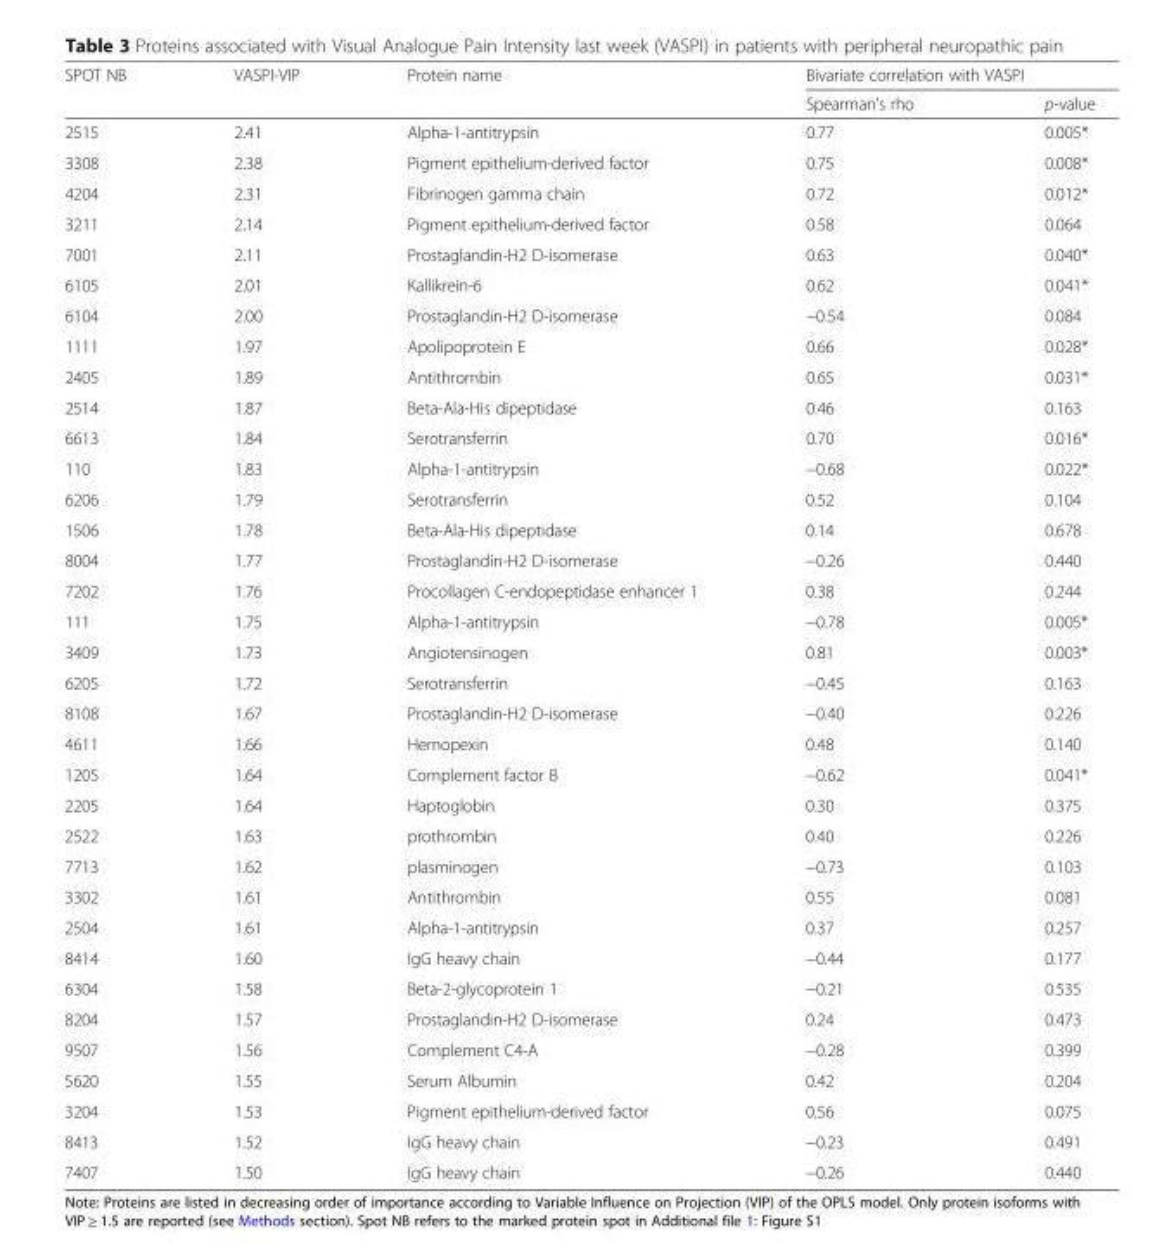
<table><thead><tr><td rowspan="2">SPOT NB</td><td rowspan="2">VASPI-VIP</td><td rowspan="2">Protein name</td><td colspan="2">Bivariate correlation with VASPI</td></tr><tr><td>Spearman’s rho</td><td>p-value</td></tr></thead><tbody><tr><td>2515</td><td>2.41</td><td>Alpha-1-antitrypsin</td><td>0.77</td><td>0.005*</td></tr><tr><td>3308</td><td>2.38</td><td>Pigment epithelium-derived factor</td><td>0.75</td><td>0.008*</td></tr><tr><td>4204</td><td>2.31</td><td>Fibrinogen gamma chain</td><td>0.72</td><td>0.012*</td></tr><tr><td>3211</td><td>2.14</td><td>Pigment epithelium-derived factor</td><td>0.58</td><td>0.064</td></tr><tr><td>7001</td><td>2.11</td><td>Prostaglandin-H2 D-isomerase</td><td>0.63</td><td>0.040*</td></tr><tr><td>6105</td><td>2.01</td><td>Kallikrein-6</td><td>0.62</td><td>0.041*</td></tr><tr><td>6104</td><td>2.00</td><td>Prostaglandin-H2 D-isomerase</td><td>−0.54</td><td>0.084</td></tr><tr><td>1111</td><td>1.97</td><td>Apolipoprotein E</td><td>0.66</td><td>0.028*</td></tr><tr><td>2405</td><td>1.89</td><td>Antithrombin</td><td>0.65</td><td>0.031*</td></tr><tr><td>2514</td><td>1.87</td><td>Beta-Ala-His dipeptidase</td><td>0.46</td><td>0.163</td></tr><tr><td>6613</td><td>1.84</td><td>Serotransferrin</td><td>0.70</td><td>0.016*</td></tr><tr><td>110</td><td>1.83</td><td>Alpha-1-antitrypsin</td><td>−0.68</td><td>0.022*</td></tr><tr><td>6206</td><td>1.79</td><td>Serotransferrin</td><td>0.52</td><td>0.104</td></tr><tr><td>1506</td><td>1.78</td><td>Beta-Ala-His dipeptidase</td><td>0.14</td><td>0.678</td></tr><tr><td>8004</td><td>1.77</td><td>Prostaglandin-H2 D-isomerase</td><td>−0.26</td><td>0.440</td></tr><tr><td>7202</td><td>1.76</td><td>Procollagen C-endopeptidase enhancer 1</td><td>0.38</td><td>0.244</td></tr><tr><td>111</td><td>1.75</td><td>Alpha-1-antitrypsin</td><td>−0.78</td><td>0.005*</td></tr><tr><td>3409</td><td>1.73</td><td>Angiotensinogen</td><td>0.81</td><td>0.003*</td></tr><tr><td>6205</td><td>1.72</td><td>Serotransferrin</td><td>−0.45</td><td>0.163</td></tr><tr><td>8108</td><td>1.67</td><td>Prostaglandin-H2 D-isomerase</td><td>−0.40</td><td>0.226</td></tr><tr><td>4611</td><td>1.66</td><td>Hemopexin</td><td>0.48</td><td>0.140</td></tr><tr><td>1205</td><td>1.64</td><td>Complement factor B</td><td>−0.62</td><td>0.041*</td></tr><tr><td>2205</td><td>1.64</td><td>Haptoglobin</td><td>0.30</td><td>0.375</td></tr><tr><td>2522</td><td>1.63</td><td>prothrombin</td><td>0.40</td><td>0.226</td></tr><tr><td>7713</td><td>1.62</td><td>plasminogen</td><td>−0.73</td><td>0.103</td></tr><tr><td>3302</td><td>1.61</td><td>Antithrombin</td><td>0.55</td><td>0.081</td></tr><tr><td>2504</td><td>1.61</td><td>Alpha-1-antitrypsin</td><td>0.37</td><td>0.257</td></tr><tr><td>8414</td><td>1.60</td><td>IgG heavy chain</td><td>−0.44</td><td>0.177</td></tr><tr><td>6304</td><td>1.58</td><td>Beta-2-glycoprotein 1</td><td>−0.21</td><td>0.535</td></tr><tr><td>8204</td><td>1.57</td><td>Prostaglandin-H2 D-isomerase</td><td>0.24</td><td>0.473</td></tr><tr><td>9507</td><td>1.56</td><td>Complement C4-A</td><td>−0.28</td><td>0.399</td></tr><tr><td>5620</td><td>1.55</td><td>Serum Albumin</td><td>0.42</td><td>0.204</td></tr><tr><td>3204</td><td>1.53</td><td>Pigment epithelium-derived factor</td><td>0.56</td><td>0.075</td></tr><tr><td>8413</td><td>1.52</td><td>IgG heavy chain</td><td>−0.23</td><td>0.491</td></tr><tr><td>7407</td><td>1.50</td><td>IgG heavy chain</td><td>−0.26</td><td>0.440</td></tr></tbody></table>